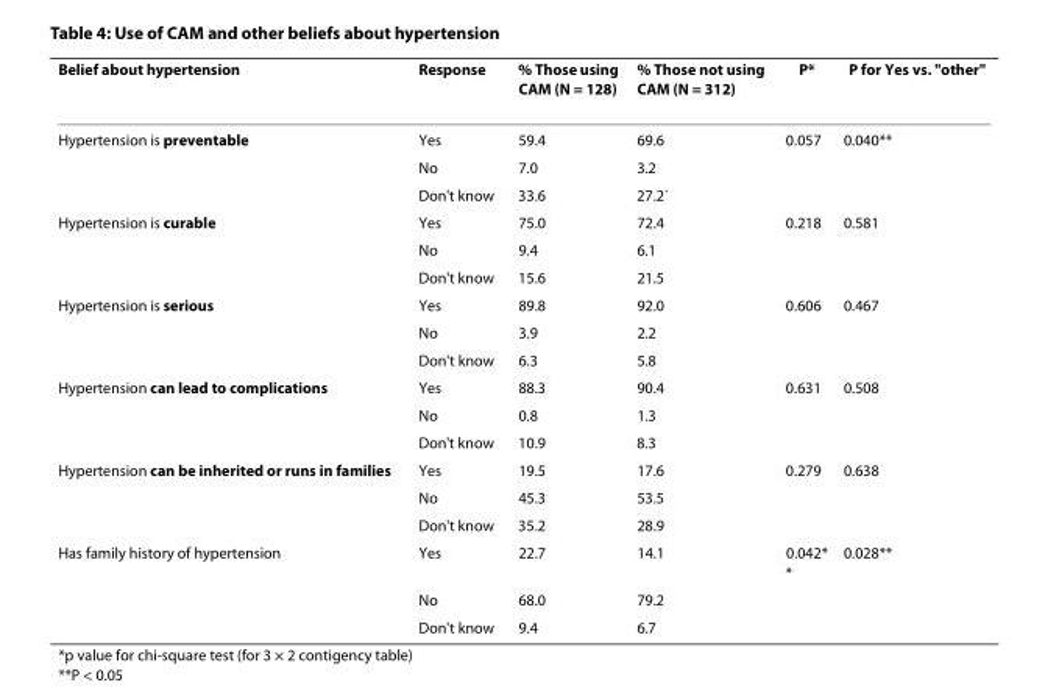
<table><thead><tr><td>Belief about hypertension</td><td>Response</td><td>% Those using CAM (N = 128)</td><td>% Those not using CAM (N = 312)</td><td>P*</td><td>P for Yes vs. &quot;other&quot;</td></tr></thead><tbody><tr><td rowspan="3">Hypertension is preventable</td><td>Yes</td><td>59.4</td><td>69.6</td><td>0.057</td><td>0.040**</td></tr><tr><td>No</td><td>7.0</td><td>3.2</td><td></td><td></td></tr><tr><td>Don&#x27;t know</td><td>33.6</td><td>27.2`</td><td></td><td></td></tr><tr><td rowspan="3">Hypertension is curable</td><td>Yes</td><td>75.0</td><td>72.4</td><td>0.218</td><td>0.581</td></tr><tr><td>No</td><td>9.4</td><td>6.1</td><td></td><td></td></tr><tr><td>Don&#x27;t know</td><td>15.6</td><td>21.5</td><td></td><td></td></tr><tr><td rowspan="3">Hypertension is serious</td><td>Yes</td><td>89.8</td><td>92.0</td><td>0.606</td><td>0.467</td></tr><tr><td>No</td><td>3.9</td><td>2.2</td><td></td><td></td></tr><tr><td>Don&#x27;t know</td><td>6.3</td><td>5.8</td><td></td><td></td></tr><tr><td rowspan="3">Hypertension can lead to complications</td><td>Yes</td><td>88.3</td><td>90.4</td><td>0.631</td><td>0.508</td></tr><tr><td>No</td><td>0.8</td><td>1.3</td><td></td><td></td></tr><tr><td>Don&#x27;t know</td><td>10.9</td><td>8.3</td><td></td><td></td></tr><tr><td rowspan="3">Hypertension can be inherited or runs in families</td><td>Yes</td><td>19.5</td><td>17.6</td><td>0.279</td><td>0.638</td></tr><tr><td>No</td><td>45.3</td><td>53.5</td><td></td><td></td></tr><tr><td>Don&#x27;t know</td><td>35.2</td><td>28.9</td><td></td><td></td></tr><tr><td rowspan="3">Has family history of hypertension</td><td>Yes</td><td>22.7</td><td>14.1</td><td>0.042* *</td><td>0.028**</td></tr><tr><td>No</td><td>68.0</td><td>79.2</td><td></td><td></td></tr><tr><td>Don&#x27;t know</td><td>9.4</td><td>6.7</td><td></td><td></td></tr></tbody></table>